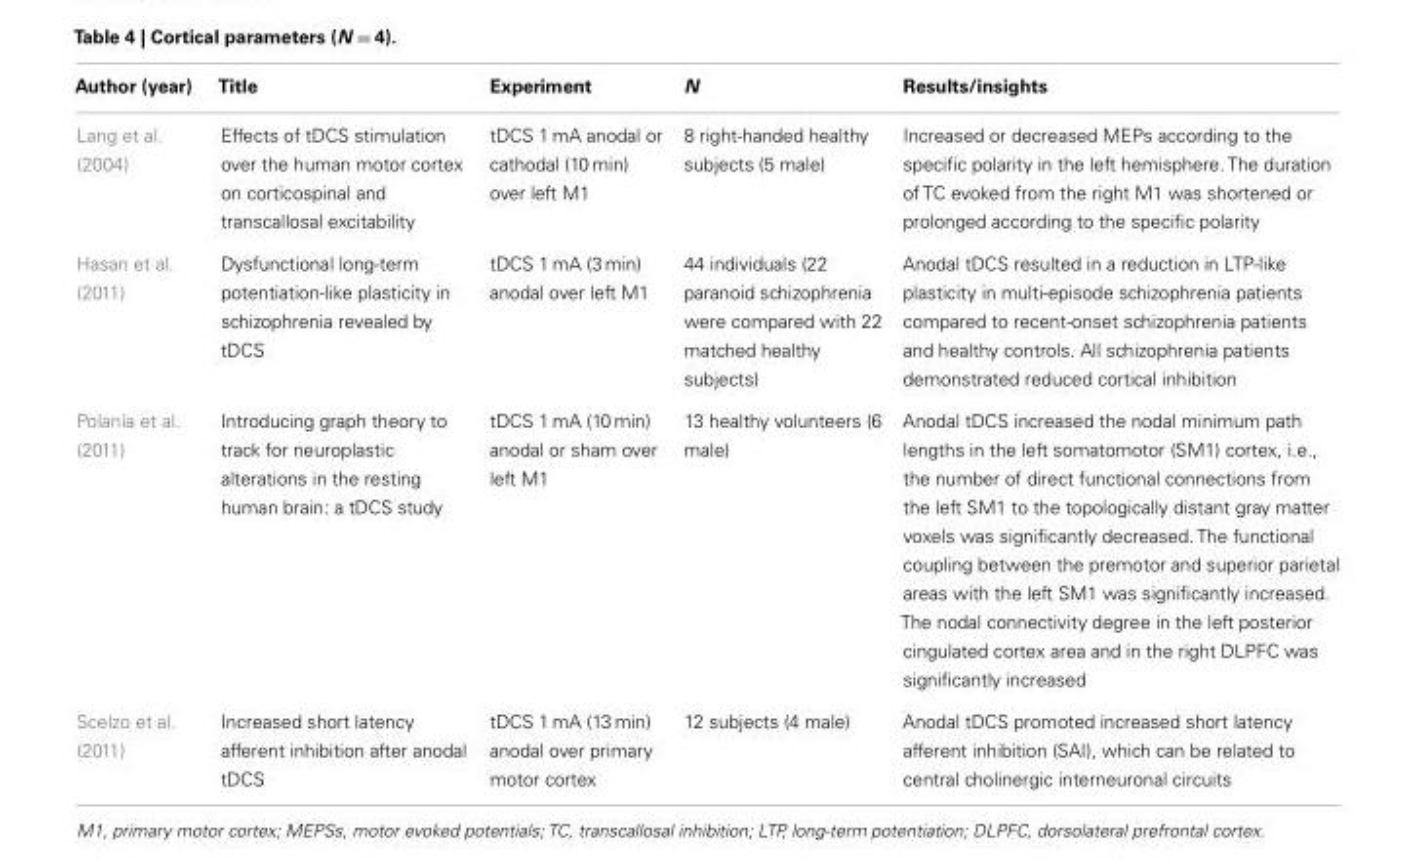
<table><thead><tr><td>Author (year)</td><td>Title</td><td>Experiment</td><td>N</td><td>Results/insights</td></tr></thead><tbody><tr><td>Lang et al. (2004)</td><td>Effects of tDCS stimulation over the human motor cortex on corticospinal and transcallosal excitability</td><td>tDCS 1 mA anodal or cathodal (10 min) over left M1</td><td>8 right-handed healthy subjects (5 male)</td><td>Increased or decreased MEPs according to the specific polarity in the left hemisphere. The duration of TC evoked from the right M1 was shortened or prolonged according to the specific polarity</td></tr><tr><td>Hasan et al. (2011)</td><td>Dysfunctional long-term potentiation-like plasticity in schizophrenia revealed by tDCS</td><td>tDCS 1 mA (3 min) anodal over left M1</td><td>44 individuals (22 paranoid schizophrenia were compared with 22 matched healthy subjects)</td><td>Anodal tDCS resulted in a reduction in LTP-like plasticity in multi-episode schizophrenia patients compared to recent-onset schizophrenia patients and healthy controls. All schizophrenia patients demonstrated reduced cortical inhibition</td></tr><tr><td>Polanía et al. (2011)</td><td>Introducing graph theory to track for neuroplastic alterations in the resting human brain: a tDCS study</td><td>tDCS 1 mA (10 min) anodal or sham over left M1</td><td>13 healthy volunteers (6 male)</td><td>Anodal tDCS increased the nodal minimum path lengths in the left somatomotor (SM1) cortex, i.e., the number of direct functional connections from the left SM1 to the topologically distant gray matter voxels was significantly decreased. The functional coupling between the premotor and superior parietal areas with the left SM1 was significantly increased. The nodal connectivity degree in the left posterior cingulated cortex area and in the right DLPFC was significantly increased</td></tr><tr><td>Scelzo et al. (2011)</td><td>Increased short latency afferent inhibition after anodal tDCS</td><td>tDCS 1 mA (13 min) anodal over primary motor cortex</td><td>12 subjects (4 male)</td><td>Anodal tDCS promoted increased short latency afferent inhibition (SAI), which can be related to central cholinergic interneuronal circuits</td></tr></tbody></table>